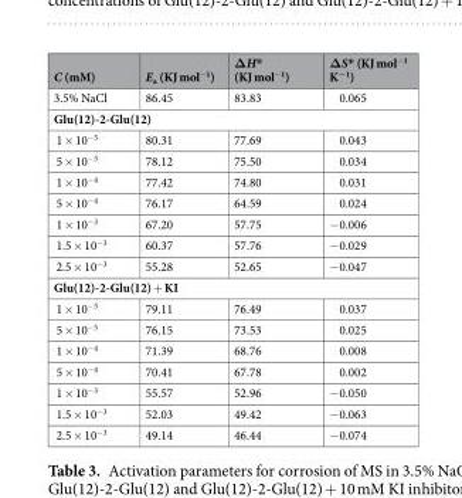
<table><thead><tr><td>C (mM)</td><td>E<sub>a</sub> (KJ mol<sup>−1</sup>)</td><td>ΔH* (KJ mol<sup>−1</sup>)</td><td>ΔS* (KJ mol<sup>−1</sup> K<sup>−1</sup>)</td></tr></thead><tbody><tr><td>3.5% NaCl</td><td>86.45</td><td>83.83</td><td>0.065</td></tr><tr><td colspan="4">Glu(12)-2-Glu(12)</td></tr><tr><td>1 × 10<sup>−5</sup></td><td>80.31</td><td>77.69</td><td>0.043</td></tr><tr><td>5 × 10<sup>−5</sup></td><td>78.12</td><td>75.50</td><td>0.034</td></tr><tr><td>1 × 10<sup>−4</sup></td><td>77.42</td><td>74.80</td><td>0.031</td></tr><tr><td>5 × 10<sup>−4</sup></td><td>76.17</td><td>64.59</td><td>0.024</td></tr><tr><td>1 × 10<sup>−3</sup></td><td>67.20</td><td>57.75</td><td>−0.006</td></tr><tr><td>1.5 × 10<sup>−3</sup></td><td>60.37</td><td>57.76</td><td>−0.029</td></tr><tr><td>2.5 × 10<sup>−3</sup></td><td>55.28</td><td>52.65</td><td>−0.047</td></tr><tr><td colspan="4">Glu(12)-2-Glu(12) + KI</td></tr><tr><td>1 × 10<sup>−5</sup></td><td>79.11</td><td>76.49</td><td>0.037</td></tr><tr><td>5 × 10<sup>−5</sup></td><td>76.15</td><td>73.53</td><td>0.025</td></tr><tr><td>1 × 10<sup>−4</sup></td><td>71.39</td><td>68.76</td><td>0.008</td></tr><tr><td>5 × 10<sup>−4</sup></td><td>70.41</td><td>67.78</td><td>0.002</td></tr><tr><td>1 × 10<sup>−3</sup></td><td>55.57</td><td>52.96</td><td>−0.050</td></tr><tr><td>1.5 × 10<sup>−3</sup></td><td>52.03</td><td>49.42</td><td>−0.063</td></tr><tr><td>2.5 × 10<sup>−3</sup></td><td>49.14</td><td>46.44</td><td>−0.074</td></tr></tbody></table>